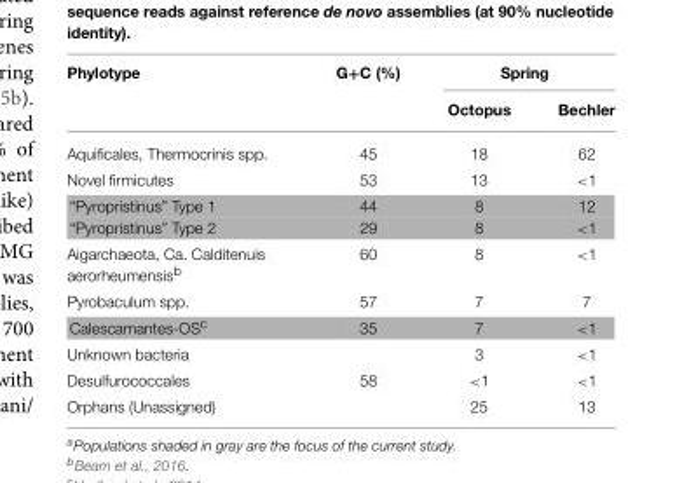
<table><thead><tr><td rowspan="2">Phylotype</td><td rowspan="2">G+C (%)</td><td colspan="2">Spring</td></tr><tr><td>Octopus</td><td>Bechler</td></tr></thead><tbody><tr><td>Aquificales, Thermocrinis spp.</td><td>45</td><td>18</td><td>62</td></tr><tr><td>Novel firmicutes</td><td>53</td><td>13</td><td>&lt;1</td></tr><tr><td>“Pyropristinus” Type 1</td><td>44</td><td>8</td><td>12</td></tr><tr><td>“Pyropristinus” Type 2</td><td>29</td><td>8</td><td>&lt;1</td></tr><tr><td>Aigarchaeota, Ca. Calditenuis aerorheumensis<sup>b</sup></td><td>60</td><td>8</td><td>&lt;1</td></tr><tr><td>Pyrobaculum spp.</td><td>57</td><td>7</td><td>7</td></tr><tr><td>Calescamantes-OS<sup>c</sup></td><td>35</td><td>7</td><td>&lt;1</td></tr><tr><td>Unknown bacteria</td><td></td><td>3</td><td>&lt;1</td></tr><tr><td>Desulfurococcales</td><td>58</td><td>&lt;1</td><td>&lt;1</td></tr><tr><td>Orphans (Unassigned)</td><td></td><td>25</td><td>13</td></tr></tbody></table>